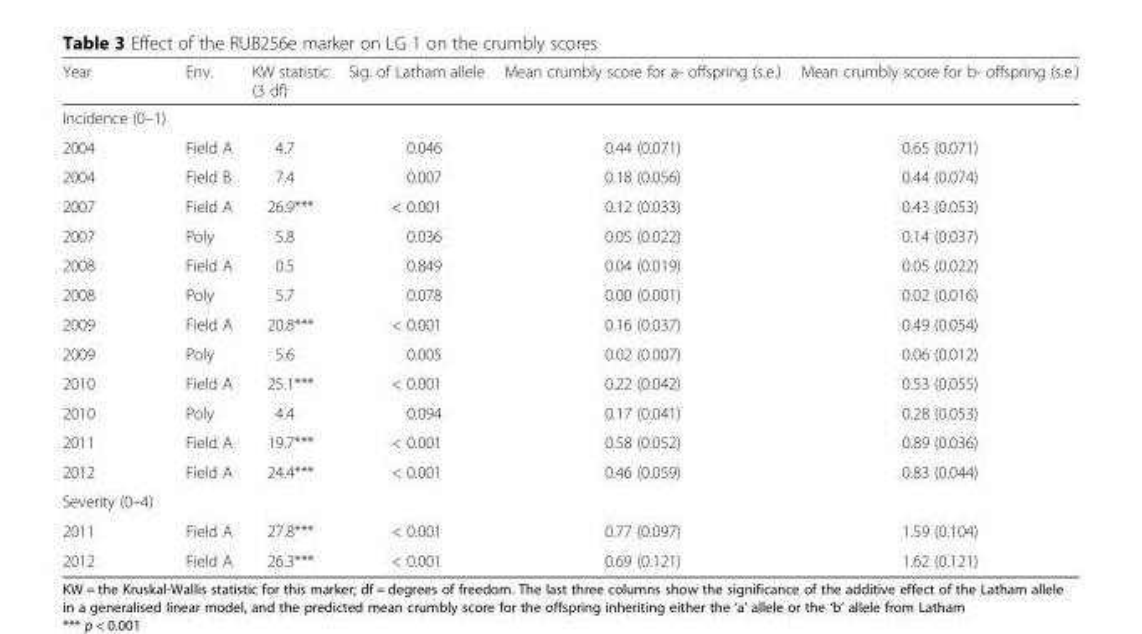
<table><thead><tr><td>Year</td><td>Env.</td><td>KW statistic (3 df)</td><td>Sig. of Latham allele</td><td>Mean crumbly score for a- offspring (s.e.)</td><td>Mean crumbly score for b- offspring (s.e.)</td></tr></thead><tbody><tr><td colspan="6">Incidence (0–1)</td></tr><tr><td>2004</td><td>Field A</td><td>4.7</td><td>0.046</td><td>0.44 (0.071)</td><td>0.65 (0.071)</td></tr><tr><td>2004</td><td>Field B</td><td>7.4</td><td>0.007</td><td>0.18 (0.056)</td><td>0.44 (0.074)</td></tr><tr><td>2007</td><td>Field A</td><td>26.9***</td><td>&lt; 0.001</td><td>0.12 (0.033)</td><td>0.43 (0.053)</td></tr><tr><td>2007</td><td>Poly</td><td>5.8</td><td>0.036</td><td>0.05 (0.022)</td><td>0.14 (0.037)</td></tr><tr><td>2008</td><td>Field A</td><td>0.5</td><td>0.849</td><td>0.04 (0.019)</td><td>0.05 (0.022)</td></tr><tr><td>2008</td><td>Poly</td><td>5.7</td><td>0.078</td><td>0.00 (0.001)</td><td>0.02 (0.016)</td></tr><tr><td>2009</td><td>Field A</td><td>20.8***</td><td>&lt; 0.001</td><td>0.16 (0.037)</td><td>0.49 (0.054)</td></tr><tr><td>2009</td><td>Poly</td><td>5.6</td><td>0.005</td><td>0.02 (0.007)</td><td>0.06 (0.012)</td></tr><tr><td>2010</td><td>Field A</td><td>25.1***</td><td>&lt; 0.001</td><td>0.22 (0.042)</td><td>0.53 (0.055)</td></tr><tr><td>2010</td><td>Poly</td><td>4.4</td><td>0.094</td><td>0.17 (0.041)</td><td>0.28 (0.053)</td></tr><tr><td>2011</td><td>Field A</td><td>19.7***</td><td>&lt; 0.001</td><td>0.58 (0.052)</td><td>0.89 (0.036)</td></tr><tr><td>2012</td><td>Field A</td><td>24.4***</td><td>&lt; 0.001</td><td>0.46 (0.059)</td><td>0.83 (0.044)</td></tr><tr><td colspan="6">Severity (0–4)</td></tr><tr><td>2011</td><td>Field A</td><td>27.8***</td><td>&lt; 0.001</td><td>0.77 (0.097)</td><td>1.59 (0.104)</td></tr><tr><td>2012</td><td>Field A</td><td>26.3***</td><td>&lt; 0.001</td><td>0.69 (0.121)</td><td>1.62 (0.121)</td></tr></tbody></table>